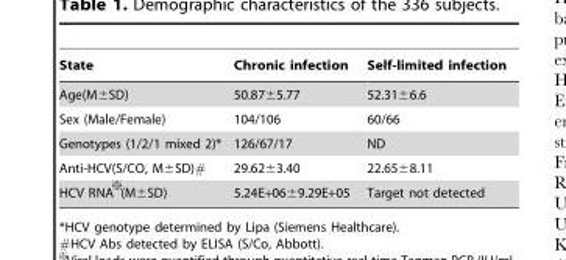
<table><thead><tr><td>State</td><td>Chronic infection</td><td>Self-limited infection</td></tr></thead><tbody><tr><td>Age(M±SD)</td><td>50.87±5.77</td><td>52.31±6.6</td></tr><tr><td>Sex (Male/Female)</td><td>104/106</td><td>60/66</td></tr><tr><td>Genotypes (1/2/1 mixed 2)*</td><td>126/67/17</td><td>ND</td></tr><tr><td>Anti-HCV(S/CO, M±SD)#</td><td>29.62±3.40</td><td>22.65±8.11</td></tr><tr><td>HCV RNA (M6SD)</td><td>5.24E+06±9.29E+05</td><td>Target not detected</td></tr></tbody></table>